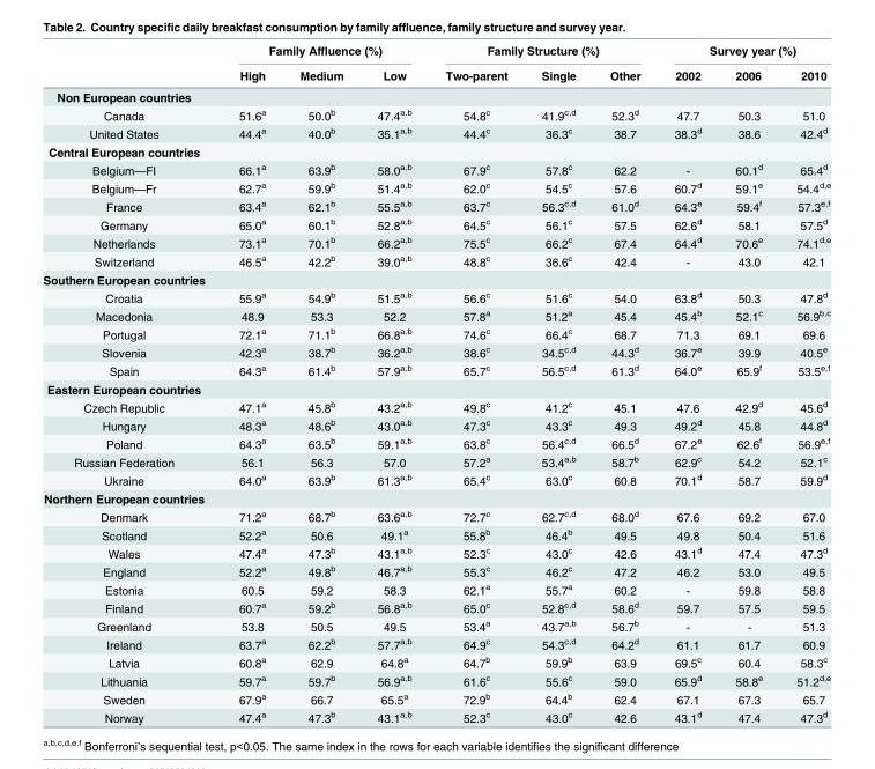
<table><thead><tr><td rowspan="2"></td><td colspan="3">Family Affluence (%)</td><td colspan="3">Family Structure (%)</td><td colspan="3">Survey year (%)</td></tr><tr><td>High</td><td>Medium</td><td>Low</td><td>Two-parent</td><td>Single</td><td>Other</td><td>2002</td><td>2006</td><td>2010</td></tr></thead><tbody><tr><td colspan="10">Non European countries</td></tr><tr><td>Canada</td><td>51.6<sup>a</sup></td><td>50.0<sup>b</sup></td><td>47.4<sup>a,b</sup></td><td>54.8<sup>c</sup></td><td>41.9<sup>c,d</sup></td><td>52.3<sup>d</sup></td><td>47.7</td><td>50.3</td><td>51.0</td></tr><tr><td>United States</td><td>44.4<sup>a</sup></td><td>40.0<sup>b</sup></td><td>35.1<sup>a,b</sup></td><td>44.4<sup>c</sup></td><td>36.3<sup>c</sup></td><td>38.7</td><td>38.3<sup>d</sup></td><td>38.6</td><td>42.4<sup>d</sup></td></tr><tr><td colspan="10">Central European countries</td></tr><tr><td>Belgium—FI</td><td>66.1<sup>a</sup></td><td>63.9<sup>b</sup></td><td>58.0<sup>a,b</sup></td><td>67.9<sup>c</sup></td><td>57.8<sup>c</sup></td><td>62.2</td><td>-</td><td>60.1<sup>d</sup></td><td>65.4<sup>d</sup></td></tr><tr><td>Belgium—Fr</td><td>62.7<sup>a</sup></td><td>59.9<sup>b</sup></td><td>51.4<sup>a,b</sup></td><td>62.0<sup>c</sup></td><td>54.5<sup>c</sup></td><td>57.6</td><td>60.7<sup>d</sup></td><td>59.1<sup>e</sup></td><td>54.4<sup>d,e</sup></td></tr><tr><td>France</td><td>63.4<sup>a</sup></td><td>62.1<sup>b</sup></td><td>55.5<sup>a,b</sup></td><td>63.7<sup>c</sup></td><td>56.3<sup>c,d</sup></td><td>61.0<sup>d</sup></td><td>64.3<sup>e</sup></td><td>59.4<sup>f</sup></td><td>57.3<sup>e,f</sup></td></tr><tr><td>Germany</td><td>65.0<sup>a</sup></td><td>60.1<sup>b</sup></td><td>52.8<sup>a,b</sup></td><td>64.5<sup>c</sup></td><td>56.1<sup>c</sup></td><td>57.5</td><td>62.6<sup>d</sup></td><td>58.1</td><td>57.5<sup>d</sup></td></tr><tr><td>Netherlands</td><td>73.1<sup>a</sup></td><td>70.1<sup>b</sup></td><td>66.2<sup>a,b</sup></td><td>75.5<sup>c</sup></td><td>66.2<sup>c</sup></td><td>67.4</td><td>64.4<sup>d</sup></td><td>70.6<sup>e</sup></td><td>74.1<sup>d,e</sup></td></tr><tr><td>Switzerland</td><td>46.5<sup>a</sup></td><td>42.2<sup>b</sup></td><td>39.0<sup>a,b</sup></td><td>48.8<sup>c</sup></td><td>36.6<sup>c</sup></td><td>42.4</td><td>-</td><td>43.0</td><td>42.1</td></tr><tr><td colspan="10">Southern European countries</td></tr><tr><td>Croatia</td><td>55.9<sup>a</sup></td><td>54.9<sup>b</sup></td><td>51.5<sup>a,b</sup></td><td>56.6<sup>c</sup></td><td>51.6<sup>c</sup></td><td>54.0</td><td>63.8<sup>d</sup></td><td>50.3</td><td>47.8<sup>d</sup></td></tr><tr><td>Macedonia</td><td>48.9</td><td>53.3</td><td>52.2</td><td>57.8<sup>a</sup></td><td>51.2<sup>a</sup></td><td>45.4</td><td>45.4<sup>b</sup></td><td>52.1<sup>c</sup></td><td>56.9<sup>b,c</sup></td></tr><tr><td>Portugal</td><td>72.1<sup>a</sup></td><td>71.1<sup>b</sup></td><td>66.8<sup>a,b</sup></td><td>74.6<sup>c</sup></td><td>66.4<sup>c</sup></td><td>68.7</td><td>71.3</td><td>69.1</td><td>69.6</td></tr><tr><td>Slovenia</td><td>42.3<sup>a</sup></td><td>38.7<sup>b</sup></td><td>36.2<sup>a,b</sup></td><td>38.6<sup>c</sup></td><td>34.5<sup>c,d</sup></td><td>44.3<sup>d</sup></td><td>36.7<sup>e</sup></td><td>39.9</td><td>40.5<sup>e</sup></td></tr><tr><td>Spain</td><td>64.3<sup>a</sup></td><td>61.4<sup>b</sup></td><td>57.9<sup>a,b</sup></td><td>65.7<sup>c</sup></td><td>56.5<sup>c,d</sup></td><td>61.3<sup>d</sup></td><td>64.0<sup>e</sup></td><td>65.9<sup>f</sup></td><td>53.5<sup>e,f</sup></td></tr><tr><td colspan="10">Eastern European countries</td></tr><tr><td>Czech Republic</td><td>47.1<sup>a</sup></td><td>45.8<sup>b</sup></td><td>43.2<sup>a,b</sup></td><td>49.8<sup>c</sup></td><td>41.2<sup>c</sup></td><td>45.1</td><td>47.6</td><td>42.9<sup>d</sup></td><td>45.6<sup>d</sup></td></tr><tr><td>Hungary</td><td>48.3<sup>a</sup></td><td>48.6<sup>b</sup></td><td>43.0<sup>a,b</sup></td><td>47.3<sup>c</sup></td><td>43.3<sup>c</sup></td><td>49.3</td><td>49.2<sup>d</sup></td><td>45.8</td><td>44.8<sup>d</sup></td></tr><tr><td>Poland</td><td>64.3<sup>a</sup></td><td>63.5<sup>b</sup></td><td>59.1<sup>a,b</sup></td><td>63.8<sup>c</sup></td><td>56.4<sup>c,d</sup></td><td>66.5<sup>d</sup></td><td>67.2<sup>e</sup></td><td>62.6<sup>f</sup></td><td>56.9<sup>e,f</sup></td></tr><tr><td>Russian Federation</td><td>56.1</td><td>56.3</td><td>57.0</td><td>57.2<sup>a</sup></td><td>53.4<sup>a,b</sup></td><td>58.7<sup>b</sup></td><td>62.9<sup>c</sup></td><td>54.2</td><td>52.1<sup>c</sup></td></tr><tr><td>Ukraine</td><td>64.0<sup>a</sup></td><td>63.9<sup>b</sup></td><td>61.3<sup>a,b</sup></td><td>65.4<sup>c</sup></td><td>63.0<sup>c</sup></td><td>60.8</td><td>70.1<sup>d</sup></td><td>58.7</td><td>59.9<sup>d</sup></td></tr><tr><td colspan="10">Northern European countries</td></tr><tr><td>Denmark</td><td>71.2<sup>a</sup></td><td>68.7<sup>b</sup></td><td>63.6<sup>a,b</sup></td><td>72.7<sup>c</sup></td><td>62.7<sup>c,d</sup></td><td>68.0<sup>d</sup></td><td>67.6</td><td>69.2</td><td>67.0</td></tr><tr><td>Scotland</td><td>52.2<sup>a</sup></td><td>50.6</td><td>49.1<sup>a</sup></td><td>55.8<sup>b</sup></td><td>46.4<sup>b</sup></td><td>49.5</td><td>49.8</td><td>50.4</td><td>51.6</td></tr><tr><td>Wales</td><td>47.4<sup>a</sup></td><td>47.3<sup>b</sup></td><td>43.1<sup>a,b</sup></td><td>52.3<sup>c</sup></td><td>43.0<sup>c</sup></td><td>42.6</td><td>43.1<sup>d</sup></td><td>47.4</td><td>47.3<sup>d</sup></td></tr><tr><td>England</td><td>52.2<sup>a</sup></td><td>49.8<sup>b</sup></td><td>46.7<sup>a,b</sup></td><td>55.3<sup>c</sup></td><td>46.2<sup>c</sup></td><td>47.2</td><td>46.2</td><td>53.0</td><td>49.5</td></tr><tr><td>Estonia</td><td>60.5</td><td>59.2</td><td>58.3</td><td>62.1<sup>a</sup></td><td>55.7<sup>a</sup></td><td>60.2</td><td>-</td><td>59.8</td><td>58.8</td></tr><tr><td>Finland</td><td>60.7<sup>a</sup></td><td>59.2<sup>b</sup></td><td>56.8<sup>a,b</sup></td><td>65.0<sup>c</sup></td><td>52.8<sup>c,d</sup></td><td>58.6<sup>d</sup></td><td>59.7</td><td>57.5</td><td>59.5</td></tr><tr><td>Greenland</td><td>53.8</td><td>50.5</td><td>49.5</td><td>53.4<sup>a</sup></td><td>43.7<sup>a,b</sup></td><td>56.7<sup>b</sup></td><td>-</td><td>-</td><td>51.3</td></tr><tr><td>Ireland</td><td>63.7<sup>a</sup></td><td>62.2<sup>b</sup></td><td>57.7<sup>a,b</sup></td><td>64.9<sup>c</sup></td><td>54.3<sup>c,d</sup></td><td>64.2<sup>d</sup></td><td>61.1</td><td>61.7</td><td>60.9</td></tr><tr><td>Latvia</td><td>60.8<sup>a</sup></td><td>62.9</td><td>64.8<sup>a</sup></td><td>64.7<sup>b</sup></td><td>59.9<sup>b</sup></td><td>63.9</td><td>69.5<sup>c</sup></td><td>60.4</td><td>58.3<sup>c</sup></td></tr><tr><td>Lithuania</td><td>59.7<sup>a</sup></td><td>59.7<sup>b</sup></td><td>56.9<sup>a,b</sup></td><td>61.6<sup>c</sup></td><td>55.6<sup>c</sup></td><td>59.0</td><td>65.9<sup>d</sup></td><td>58.8<sup>e</sup></td><td>51.2<sup>d,e</sup></td></tr><tr><td>Sweden</td><td>67.9<sup>a</sup></td><td>66.7</td><td>65.5<sup>a</sup></td><td>72.9<sup>b</sup></td><td>64.4<sup>b</sup></td><td>62.4</td><td>67.1</td><td>67.3</td><td>65.7</td></tr><tr><td>Norway</td><td>47.4<sup>a</sup></td><td>47.3<sup>b</sup></td><td>43.1<sup>a,b</sup></td><td>52.3<sup>c</sup></td><td>43.0<sup>c</sup></td><td>42.6</td><td>43.1<sup>d</sup></td><td>47.4</td><td>47.3<sup>d</sup></td></tr></tbody></table>